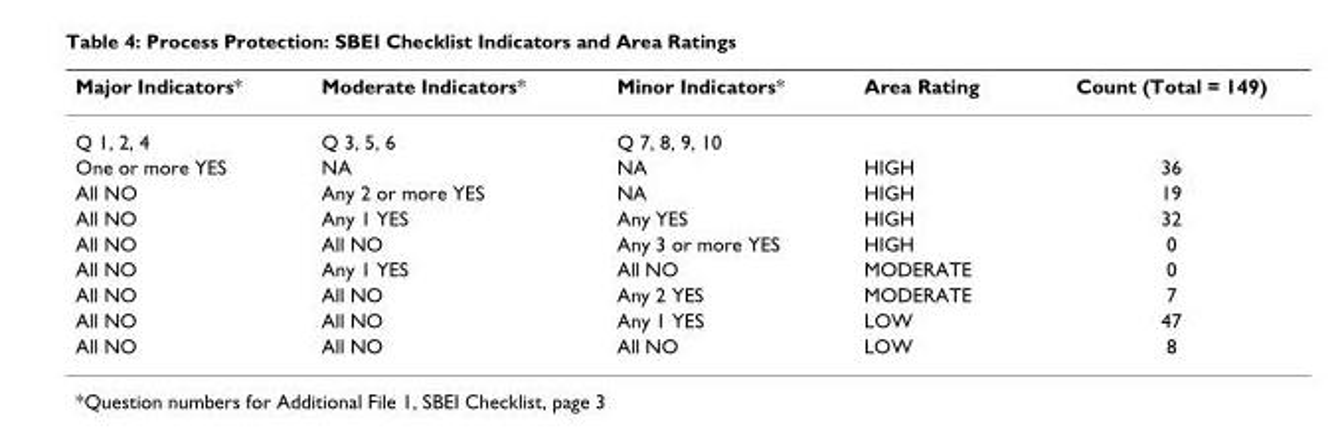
<table><thead><tr><td>Major Indicators*</td><td>Moderate Indicators*</td><td>Minor Indicators*</td><td>Area Rating</td><td>Count (Total = 149)</td></tr></thead><tbody><tr><td>Q 1, 2, 4</td><td>Q 3, 5, 6</td><td>Q 7, 8, 9, 10</td><td></td><td></td></tr><tr><td>One or more YES</td><td>NA</td><td>NA</td><td>HIGH</td><td>36</td></tr><tr><td>All NO</td><td>Any 2 or more YES</td><td>NA</td><td>HIGH</td><td>19</td></tr><tr><td>All NO</td><td>Any 1 YES</td><td>Any YES</td><td>HIGH</td><td>32</td></tr><tr><td>All NO</td><td>All NO</td><td>Any 3 or more YES</td><td>HIGH</td><td>0</td></tr><tr><td>All NO</td><td>Any 1 YES</td><td>All NO</td><td>MODERATE</td><td>0</td></tr><tr><td>All NO</td><td>All NO</td><td>Any 2 YES</td><td>MODERATE</td><td>7</td></tr><tr><td>All NO</td><td>All NO</td><td>Any 1 YES</td><td>LOW</td><td>47</td></tr><tr><td>All NO</td><td>All NO</td><td>All NO</td><td>LOW</td><td>8</td></tr></tbody></table>